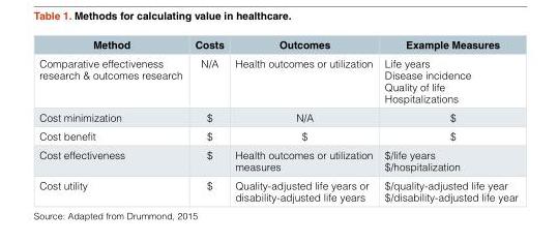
<table><thead><tr><td>Method</td><td>Costs</td><td>Outcomes</td><td>Example Measures</td></tr></thead><tbody><tr><td>Comparative effectiveness research &amp; outcomes research</td><td>N/A</td><td>Health outcomes or utilization</td><td>Life years Disease incidence Quality of life Hospitalizations</td></tr><tr><td>Cost minimization</td><td>$</td><td>N/A</td><td>$</td></tr><tr><td>Cost benefit</td><td>$</td><td>$</td><td>$</td></tr><tr><td>Cost effectiveness</td><td>$</td><td>Health outcomes or utilization measures</td><td>$/life years $/hospitalization</td></tr><tr><td>Cost utility</td><td>$</td><td>Quality-adjusted life years or disability-adjusted life years</td><td>$/quality-adjusted life year $/disability-adjusted life year</td></tr></tbody></table>